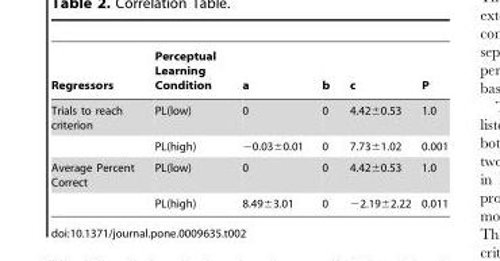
<table><thead><tr><td>Regressors</td><td>Perceptual Learning Condition</td><td>a</td><td>b</td><td>c</td><td>P</td></tr></thead><tbody><tr><td rowspan="2">Trials to reach criterion</td><td>PL(low)</td><td>0</td><td>0</td><td>4.42±0.53</td><td>1.0</td></tr><tr><td>PL(high)</td><td>−0.03±0.01</td><td>0</td><td>7.73±1.02</td><td>0.001</td></tr><tr><td rowspan="2">Average Percent Correct</td><td>PL(low)</td><td>0</td><td>0</td><td>4.42±0.53</td><td>1.0</td></tr><tr><td>PL(high)</td><td>8.49±3.01</td><td>0</td><td>−2.19±2.22</td><td>0.011</td></tr></tbody></table>